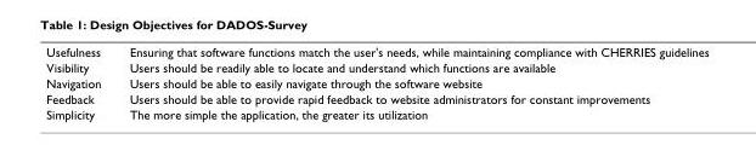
<table><tbody><tr><td>Usefulness</td><td>Ensuring that software functions match the user&#x27;s needs, while maintaining compliance with CHERRIES guidelines</td></tr><tr><td>Visibility</td><td>Users should be readily able to locate and understand which functions are available</td></tr><tr><td>Navigation</td><td>Users should be able to easily navigate through the software website</td></tr><tr><td>Feedback</td><td>Users should be able to provide rapid feedback to website administrators for constant improvements</td></tr><tr><td>Simplicity</td><td>The more simple the application, the greater its utilization</td></tr></tbody></table>